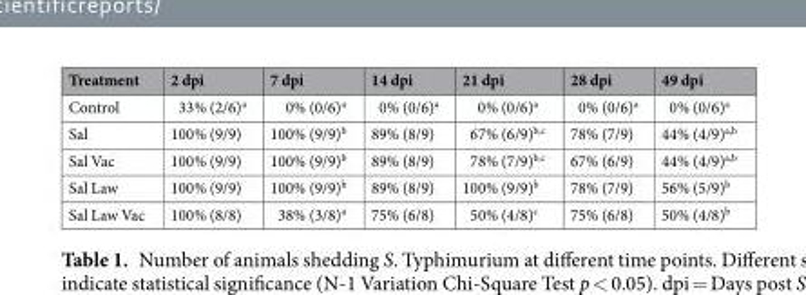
<table><thead><tr><td>Treatment</td><td>2 dpi</td><td>7 dpi</td><td>14 dpi</td><td>21 dpi</td><td>28 dpi</td><td>49 dpi</td></tr></thead><tbody><tr><td>Control</td><td>33% (2/6)<sup>a</sup></td><td>0% (0/6)<sup>a</sup></td><td>0% (0/6)<sup>a</sup></td><td>0% (0/6)<sup>a</sup></td><td>0% (0/6)<sup>a</sup></td><td>0% (0/6)<sup>a</sup></td></tr><tr><td>Sal</td><td>100% (9/9)</td><td>100% (9/9)<sup>b</sup></td><td>89% (8/9)</td><td>67% (6/9)<sup>b,c</sup></td><td>78% (7/9)</td><td>44% (4/9)<sup>a,b</sup></td></tr><tr><td>Sal Vac</td><td>100% (9/9)</td><td>100% (9/9)<sup>b</sup></td><td>89% (8/9)</td><td>78% (7/9)<sup>b,c</sup></td><td>67% (6/9)</td><td>44% (4/9)<sup>a,b</sup></td></tr><tr><td>Sal Law</td><td>100% (9/9)</td><td>100% (9/9)<sup>b</sup></td><td>89% (8/9)</td><td>100% (9/9)<sup>b</sup></td><td>78% (7/9)</td><td>56% (5/9)<sup>b</sup></td></tr><tr><td>Sal Law Vac</td><td>100% (8/8)</td><td>38% (3/8)<sup>a</sup></td><td>75% (6/8)</td><td>50% (4/8)<sup>c</sup></td><td>75% (6/8)</td><td>50% (4/8)<sup>b</sup></td></tr></tbody></table>